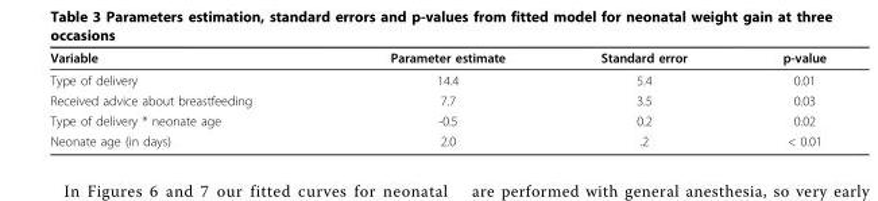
<table><thead><tr><td>Variable</td><td>Parameter estimate</td><td>Standard error</td><td>p-value</td></tr></thead><tbody><tr><td>Type of delivery</td><td>14.4</td><td>5.4</td><td>0.01</td></tr><tr><td>Received advice about breastfeeding</td><td>7.7</td><td>3.5</td><td>0.03</td></tr><tr><td>Type of delivery * neonate age</td><td>-0.5</td><td>0.2</td><td>0.02</td></tr><tr><td>Neonate age (in days)</td><td>2.0</td><td>.2</td><td>&lt; 0.01</td></tr></tbody></table>